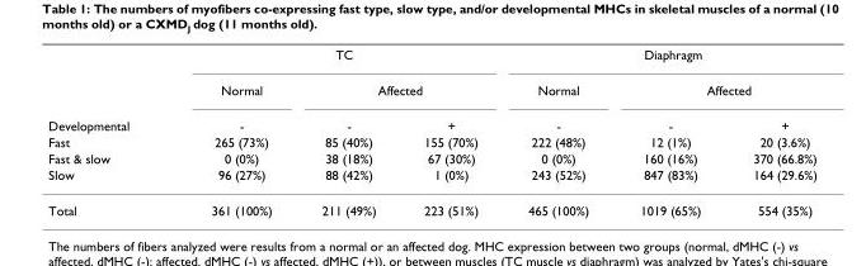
<table><thead><tr><td rowspan="6">Developmental Fast Fast &amp; slow Slow</td><td colspan="3">TC</td><td colspan="3">Diaphragm</td></tr><tr><td rowspan="5">Normal - 265 (73%) 0 (0%) 96 (27%)</td><td colspan="2">Affected</td><td rowspan="5">Normal - 222 (48%) 0 (0%) 243 (52%)</td><td colspan="2">Affected</td></tr><tr><td rowspan="4">- 85 (40%) 38 (18%) 88 (42%)</td><td rowspan="4">+ 155 (70%) 67 (30%) 1 (0%)</td><td rowspan="4">- 12 (1%) 160 (16%) 847 (83%)</td><td rowspan="4">+ 20 (3.6%) 370 (66.8%) 164 (29.6%)</td></tr><tr></tr><tr></tr><tr></tr></thead><tbody><tr><td>Total</td><td>361 (100%)</td><td>211 (49%)</td><td>223 (51%)</td><td>465 (100%)</td><td>1019 (65%)</td><td>554 (35%)</td></tr></tbody></table>